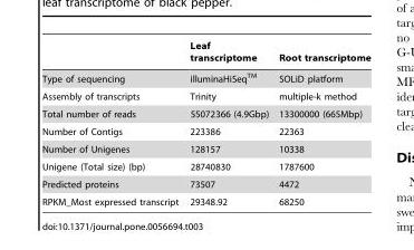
<table><thead><tr><td></td><td>Leaf transcriptome</td><td>Root transcriptome</td></tr></thead><tbody><tr><td>Type of sequencing</td><td>illuminaHiSeqTM</td><td>SOLiD platform</td></tr><tr><td>Assembly of transcripts</td><td>Trinity</td><td>multiple-k method</td></tr><tr><td>Total number of reads</td><td>55072366 (4.9Gbp)</td><td>13300000 (665Mbp)</td></tr><tr><td>Number of Contigs</td><td>223386</td><td>22363</td></tr><tr><td>Number of Unigenes</td><td>128157</td><td>10338</td></tr><tr><td>Unigene (Total size) (bp)</td><td>28740830</td><td>1787600</td></tr><tr><td>Predicted proteins</td><td>73507</td><td>4472</td></tr><tr><td>RPKM_Most expressed transcript</td><td>29348.92</td><td>68250</td></tr></tbody></table>